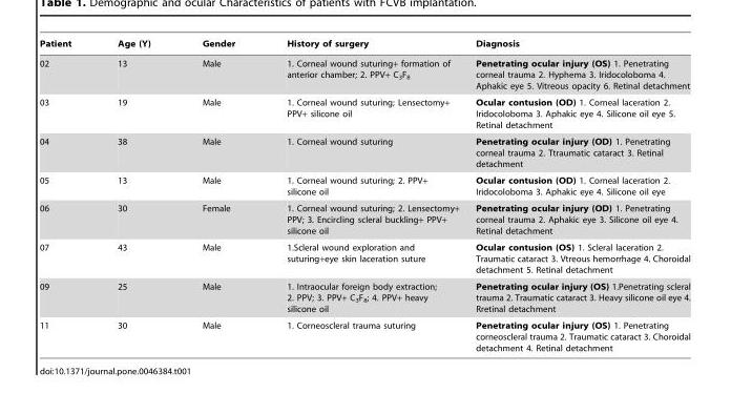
<table><thead><tr><td>Patient</td><td>Age (Y)</td><td>Gender</td><td>History of surgery</td><td>Diagnosis</td></tr></thead><tbody><tr><td>02</td><td>13</td><td>Male</td><td>1. Corneal wound suturing+ formation of anterior chamber; 2. PPV+ C<sub>3</sub>F<sub>8</sub></td><td>Penetrating ocular injury (OS) 1. Penetrating corneal trauma 2. Hyphema 3. Iridocoloboma 4. Aphakic eye 5. Vitreous opacity 6. Retinal detachment</td></tr><tr><td>03</td><td>19</td><td>Male</td><td>1. Corneal wound suturing; Lensectomy+ PPV+ silicone oil</td><td>Ocular contusion (OD) 1. Corneal laceration 2. Iridocoloboma 3. Aphakic eye 4. Silicone oil eye 5. Retinal detachment</td></tr><tr><td>04</td><td>38</td><td>Male</td><td>1. Corneal wound suturing</td><td>Penetrating ocular injury (OD) 1. Penetrating corneal trauma 2. Ttraumatic cataract 3. Retinal detachment</td></tr><tr><td>05</td><td>13</td><td>Male</td><td>1. Corneal wound suturing; 2. PPV+ silicone oil</td><td>Ocular contusion (OD) 1. Corneal laceration 2. Iridocoloboma 3. Aphakic eye 4. Silicone oil eye</td></tr><tr><td>06</td><td>30</td><td>Female</td><td>1. Corneal wound suturing; 2. Lensectomy+ PPV; 3. Encircling scleral buckling+ PPV+ silicone oil</td><td>Penetrating ocular injury (OD) 1. Penetrating corneal trauma 2. Aphakic eye 3. Silicone oil eye 4. Retinal detachment</td></tr><tr><td>07</td><td>43</td><td>Male</td><td>1.Scleral wound exploration and suturing+eye skin laceration suture</td><td>Ocular contusion (OS) 1. Scleral laceration 2. Traumatic cataract 3. Vtreous hemorrhage 4. Choroidal detachment 5. Retinal detachment</td></tr><tr><td>09</td><td>25</td><td>Male</td><td>1. Intraocular foreign body extraction; 2. PPV; 3. PPV+ C<sub>3</sub>F<sub>8</sub>; 4. PPV+ heavy silicone oil</td><td>Penetrating ocular injury (OS) 1.Penetrating scleral trauma 2. Traumatic cataract 3. Heavy silicone oil eye 4. Rretinal detachment</td></tr><tr><td>11</td><td>30</td><td>Male</td><td>1. Corneoscleral trauma suturing</td><td>Penetrating ocular injury (OS) 1. Penetrating corneoscleral trauma 2. Traumatic cataract 3. Choroidal detachment 4. Retinal detachment</td></tr></tbody></table>